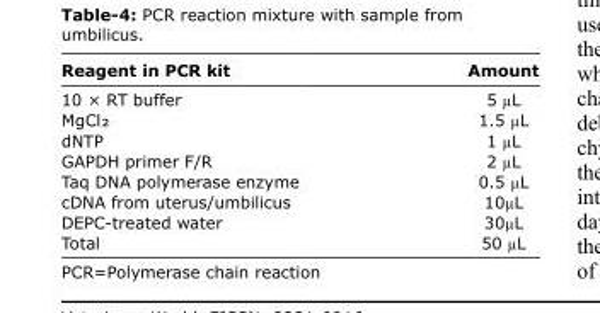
<table><thead><tr><td>Reagent in PCR kit</td><td>Amount</td></tr></thead><tbody><tr><td>10 × RT buffer</td><td>5 µL</td></tr><tr><td>MgCl₂</td><td>1.5 µL</td></tr><tr><td>dNTP</td><td>1 µL</td></tr><tr><td>GAPDH primer F/R</td><td>2 µL</td></tr><tr><td>Taq DNA polymerase enzyme</td><td>0.5 µL</td></tr><tr><td>cDNA from uterus/umbilicus</td><td>10µL</td></tr><tr><td>DEPC-treated water</td><td>30µL</td></tr><tr><td>Total</td><td>50 µL</td></tr></tbody></table>